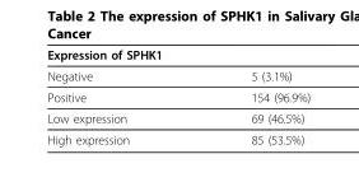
<table><thead><tr><td colspan="2">Expression of SPHK1</td></tr><tr><td>Negative</td><td>5 (3.1%)</td></tr></thead><tbody><tr><td>Positive</td><td>154 (96.9%)</td></tr><tr><td>Low expression</td><td>69 (46.5%)</td></tr><tr><td>High expression</td><td>85 (53.5%)</td></tr></tbody></table>